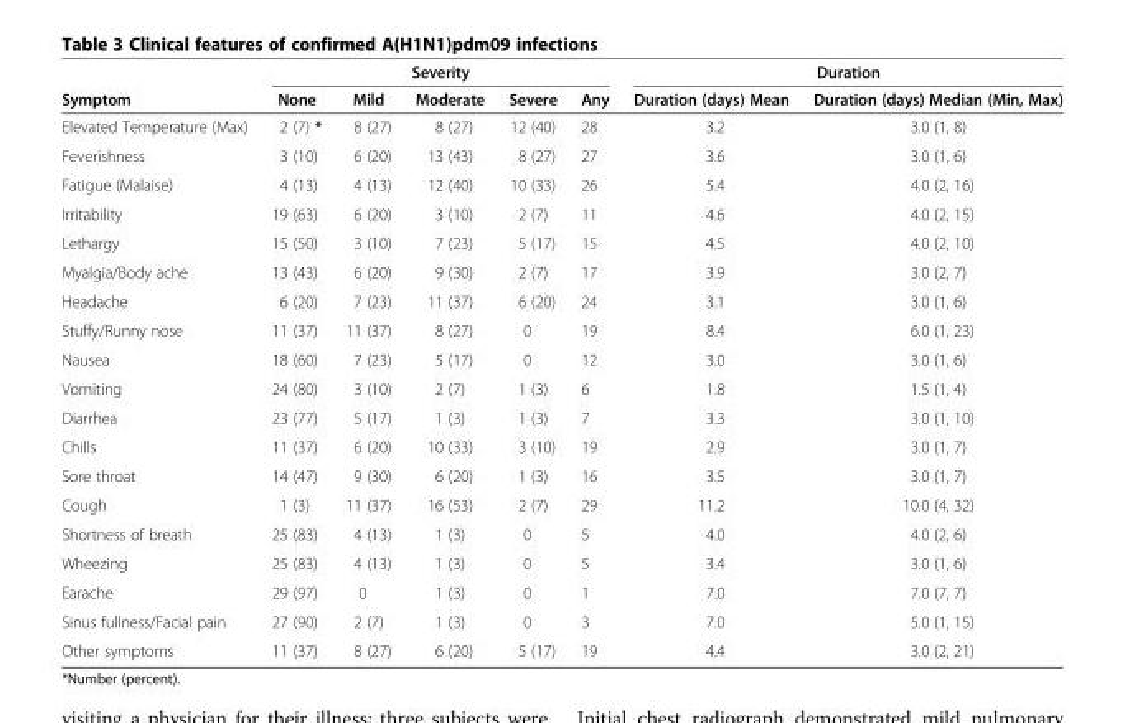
<table><thead><tr><td rowspan="2">Symptom</td><td colspan="5">Severity</td><td colspan="2">Duration</td></tr><tr><td>None</td><td>Mild</td><td>Moderate</td><td>Severe</td><td>Any</td><td>Duration (days) Mean</td><td>Duration (days) Median (Min, Max)</td></tr></thead><tbody><tr><td>Elevated Temperature (Max)</td><td>2 (7) *</td><td>8 (27)</td><td>8 (27)</td><td>12 (40)</td><td>28</td><td>3.2</td><td>3.0 (1, 8)</td></tr><tr><td>Feverishness</td><td>3 (10)</td><td>6 (20)</td><td>13 (43)</td><td>8 (27)</td><td>27</td><td>3.6</td><td>3.0 (1, 6)</td></tr><tr><td>Fatigue (Malaise)</td><td>4 (13)</td><td>4 (13)</td><td>12 (40)</td><td>10 (33)</td><td>26</td><td>5.4</td><td>4.0 (2, 16)</td></tr><tr><td>Irritability</td><td>19 (63)</td><td>6 (20)</td><td>3 (10)</td><td>2 (7)</td><td>11</td><td>4.6</td><td>4.0 (2, 15)</td></tr><tr><td>Lethargy</td><td>15 (50)</td><td>3 (10)</td><td>7 (23)</td><td>5 (17)</td><td>15</td><td>4.5</td><td>4.0 (2, 10)</td></tr><tr><td>Myalgia/Body ache</td><td>13 (43)</td><td>6 (20)</td><td>9 (30)</td><td>2 (7)</td><td>17</td><td>3.9</td><td>3.0 (2, 7)</td></tr><tr><td>Headache</td><td>6 (20)</td><td>7 (23)</td><td>11 (37)</td><td>6 (20)</td><td>24</td><td>3.1</td><td>3.0 (1, 6)</td></tr><tr><td>Stuffy/Runny nose</td><td>11 (37)</td><td>11 (37)</td><td>8 (27)</td><td>0</td><td>19</td><td>8.4</td><td>6.0 (1, 23)</td></tr><tr><td>Nausea</td><td>18 (60)</td><td>7 (23)</td><td>5 (17)</td><td>0</td><td>12</td><td>3.0</td><td>3.0 (1, 6)</td></tr><tr><td>Vomiting</td><td>24 (80)</td><td>3 (10)</td><td>2 (7)</td><td>1 (3)</td><td>6</td><td>1.8</td><td>1.5 (1, 4)</td></tr><tr><td>Diarrhea</td><td>23 (77)</td><td>5 (17)</td><td>1 (3)</td><td>1 (3)</td><td>7</td><td>3.3</td><td>3.0 (1, 10)</td></tr><tr><td>Chills</td><td>11 (37)</td><td>6 (20)</td><td>10 (33)</td><td>3 (10)</td><td>19</td><td>2.9</td><td>3.0 (1, 7)</td></tr><tr><td>Sore throat</td><td>14 (47)</td><td>9 (30)</td><td>6 (20)</td><td>1 (3)</td><td>16</td><td>3.5</td><td>3.0 (1, 7)</td></tr><tr><td>Cough</td><td>1 (3)</td><td>11 (37)</td><td>16 (53)</td><td>2 (7)</td><td>29</td><td>11.2</td><td>10.0 (4, 32)</td></tr><tr><td>Shortness of breath</td><td>25 (83)</td><td>4 (13)</td><td>1 (3)</td><td>0</td><td>5</td><td>4.0</td><td>4.0 (2, 6)</td></tr><tr><td>Wheezing</td><td>25 (83)</td><td>4 (13)</td><td>1 (3)</td><td>0</td><td>5</td><td>3.4</td><td>3.0 (1, 6)</td></tr><tr><td>Earache</td><td>29 (97)</td><td>0</td><td>1 (3)</td><td>0</td><td>1</td><td>7.0</td><td>7.0 (7, 7)</td></tr><tr><td>Sinus fullness/Facial pain</td><td>27 (90)</td><td>2 (7)</td><td>1 (3)</td><td>0</td><td>3</td><td>7.0</td><td>5.0 (1, 15)</td></tr><tr><td>Other symptoms</td><td>11 (37)</td><td>8 (27)</td><td>6 (20)</td><td>5 (17)</td><td>19</td><td>4.4</td><td>3.0 (2, 21)</td></tr></tbody></table>